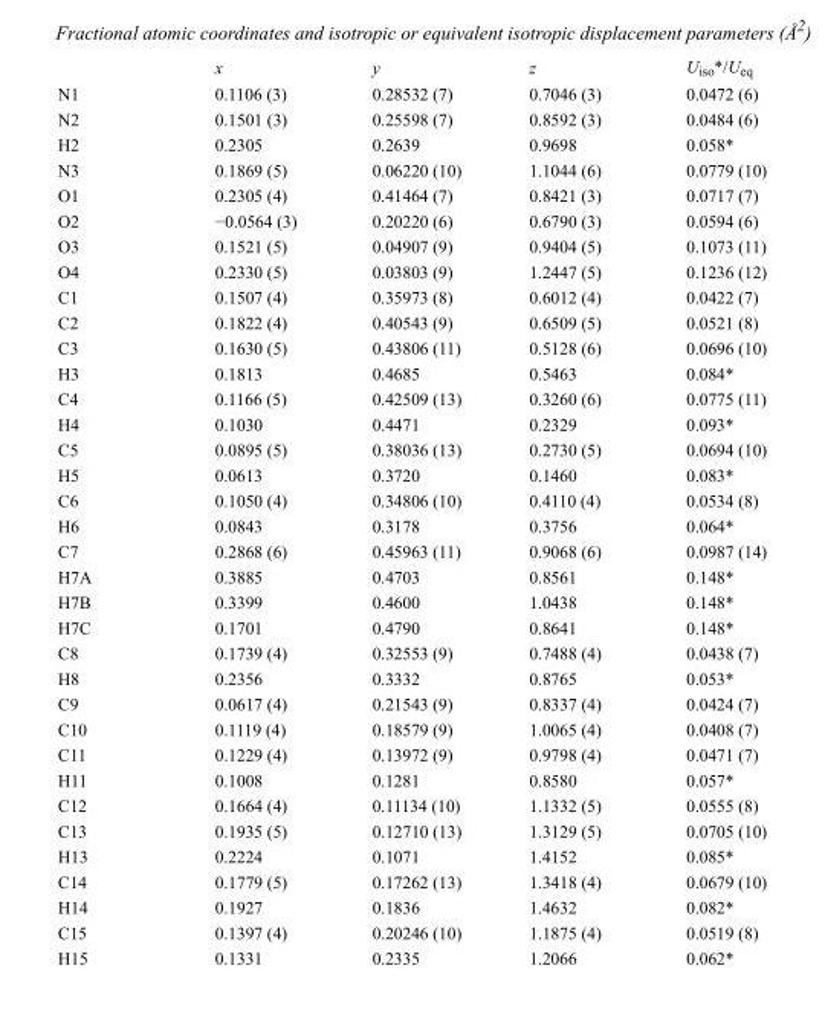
<table><thead><tr><td></td><td>x</td><td>y</td><td>z</td><td>U<sub>iso</sub>*/U<sub>eq</sub></td></tr></thead><tbody><tr><td>N1</td><td>0.1106 (3)</td><td>0.28532 (7)</td><td>0.7046 (3)</td><td>0.0472 (6)</td></tr><tr><td>N2</td><td>0.1501 (3)</td><td>0.25598 (7)</td><td>0.8592 (3)</td><td>0.0484 (6)</td></tr><tr><td>H2</td><td>0.2305</td><td>0.2639</td><td>0.9698</td><td>0.058*</td></tr><tr><td>N3</td><td>0.1869 (5)</td><td>0.06220 (10)</td><td>1.1044 (6)</td><td>0.0779 (10)</td></tr><tr><td>O1</td><td>0.2305 (4)</td><td>0.41464 (7)</td><td>0.8421 (3)</td><td>0.0717 (7)</td></tr><tr><td>O2</td><td>−0.0564 (3)</td><td>0.20220 (6)</td><td>0.6790 (3)</td><td>0.0594 (6)</td></tr><tr><td>O3</td><td>0.1521 (5)</td><td>0.04907 (9)</td><td>0.9404 (5)</td><td>0.1073 (11)</td></tr><tr><td>O4</td><td>0.2330 (5)</td><td>0.03803 (9)</td><td>1.2447 (5)</td><td>0.1236 (12)</td></tr><tr><td>C1</td><td>0.1507 (4)</td><td>0.35973 (8)</td><td>0.6012 (4)</td><td>0.0422 (7)</td></tr><tr><td>C2</td><td>0.1822 (4)</td><td>0.40543 (9)</td><td>0.6509 (5)</td><td>0.0521 (8)</td></tr><tr><td>C3</td><td>0.1630 (5)</td><td>0.43806 (11)</td><td>0.5128 (6)</td><td>0.0696 (10)</td></tr><tr><td>H3</td><td>0.1813</td><td>0.4685</td><td>0.5463</td><td>0.084*</td></tr><tr><td>C4</td><td>0.1166 (5)</td><td>0.42509 (13)</td><td>0.3260 (6)</td><td>0.0775 (11)</td></tr><tr><td>H4</td><td>0.1030</td><td>0.4471</td><td>0.2329</td><td>0.093*</td></tr><tr><td>C5</td><td>0.0895 (5)</td><td>0.38036 (13)</td><td>0.2730 (5)</td><td>0.0694 (10)</td></tr><tr><td>H5</td><td>0.0613</td><td>0.3720</td><td>0.1460</td><td>0.083*</td></tr><tr><td>C6</td><td>0.1050 (4)</td><td>0.34806 (10)</td><td>0.4110 (4)</td><td>0.0534 (8)</td></tr><tr><td>H6</td><td>0.0843</td><td>0.3178</td><td>0.3756</td><td>0.064*</td></tr><tr><td>C7</td><td>0.2868 (6)</td><td>0.45963 (11)</td><td>0.9068 (6)</td><td>0.0987 (14)</td></tr><tr><td>H7A</td><td>0.3885</td><td>0.4703</td><td>0.8561</td><td>0.148*</td></tr><tr><td>H7B</td><td>0.3399</td><td>0.4600</td><td>1.0438</td><td>0.148*</td></tr><tr><td>H7C</td><td>0.1701</td><td>0.4790</td><td>0.8641</td><td>0.148*</td></tr><tr><td>C8</td><td>0.1739 (4)</td><td>0.32553 (9)</td><td>0.7488 (4)</td><td>0.0438 (7)</td></tr><tr><td>H8</td><td>0.2356</td><td>0.3332</td><td>0.8765</td><td>0.053*</td></tr><tr><td>C9</td><td>0.0617 (4)</td><td>0.21543 (9)</td><td>0.8337 (4)</td><td>0.0424 (7)</td></tr><tr><td>C10</td><td>0.1119 (4)</td><td>0.18579 (9)</td><td>1.0065 (4)</td><td>0.0408 (7)</td></tr><tr><td>C11</td><td>0.1229 (4)</td><td>0.13972 (9)</td><td>0.9798 (4)</td><td>0.0471 (7)</td></tr><tr><td>H11</td><td>0.1008</td><td>0.1281</td><td>0.8580</td><td>0.057*</td></tr><tr><td>C12</td><td>0.1664 (4)</td><td>0.11134 (10)</td><td>1.1332 (5)</td><td>0.0555 (8)</td></tr><tr><td>C13</td><td>0.1935 (5)</td><td>0.12710 (13)</td><td>1.3129 (5)</td><td>0.0705 (10)</td></tr><tr><td>H13</td><td>0.2224</td><td>0.1071</td><td>1.4152</td><td>0.085*</td></tr><tr><td>C14</td><td>0.1779 (5)</td><td>0.17262 (13)</td><td>1.3418 (4)</td><td>0.0679 (10)</td></tr><tr><td>H14</td><td>0.1927</td><td>0.1836</td><td>1.4632</td><td>0.082*</td></tr><tr><td>C15</td><td>0.1397 (4)</td><td>0.20246 (10)</td><td>1.1875 (4)</td><td>0.0519 (8)</td></tr><tr><td>H15</td><td>0.1331</td><td>0.2335</td><td>1.2066</td><td>0.062*</td></tr></tbody></table>